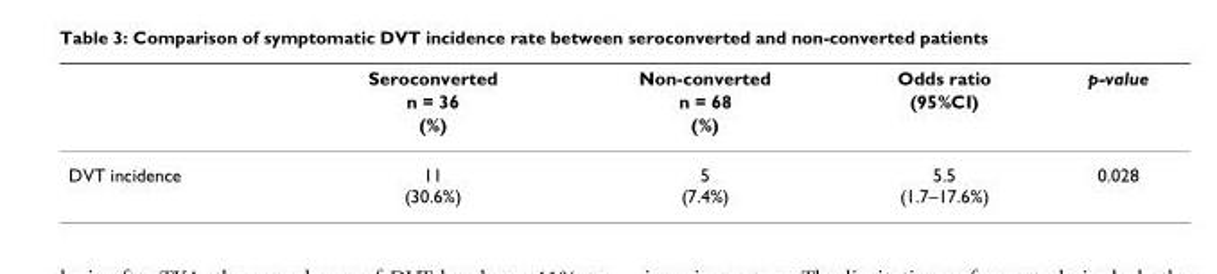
<table><thead><tr><td rowspan="3"></td><td rowspan="3">Seroconverted n = 36 (%)</td><td rowspan="3">Non-converted n = 68 (%)</td><td rowspan="3">Odds ratio (95%CI)</td><td rowspan="3">p-value</td></tr><tr></tr><tr></tr></thead><tbody><tr><td>DVT incidence</td><td>11 (30.6%)</td><td>5 (7.4%)</td><td>5.5 (1.7–17.6%)</td><td>0.028</td></tr></tbody></table>